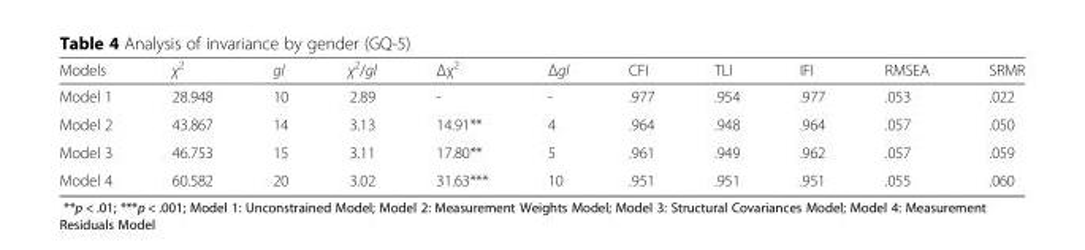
<table><thead><tr><td>Models</td><td>χ<sup>2</sup></td><td>gl</td><td>χ<sup>2</sup>/gl</td><td>Δχ<sup>2</sup></td><td>Δgl</td><td>CFI</td><td>TLI</td><td>IFI</td><td>RMSEA</td><td>SRMR</td></tr></thead><tbody><tr><td>Model 1</td><td>28.948</td><td>10</td><td>2.89</td><td>-</td><td>-</td><td>.977</td><td>.954</td><td>.977</td><td>.053</td><td>.022</td></tr><tr><td>Model 2</td><td>43.867</td><td>14</td><td>3.13</td><td>14.91**</td><td>4</td><td>.964</td><td>.948</td><td>.964</td><td>.057</td><td>.050</td></tr><tr><td>Model 3</td><td>46.753</td><td>15</td><td>3.11</td><td>17.80**</td><td>5</td><td>.961</td><td>.949</td><td>.962</td><td>.057</td><td>.059</td></tr><tr><td>Model 4</td><td>60.582</td><td>20</td><td>3.02</td><td>31.63***</td><td>10</td><td>.951</td><td>.951</td><td>.951</td><td>.055</td><td>.060</td></tr></tbody></table>